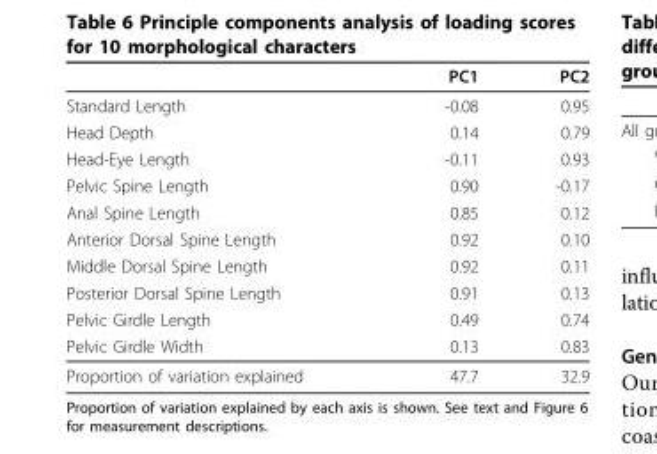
<table><thead><tr><td></td><td>PC1</td><td>PC2</td></tr></thead><tbody><tr><td>Standard Length</td><td>-0.08</td><td>0.95</td></tr><tr><td>Head Depth</td><td>0.14</td><td>0.79</td></tr><tr><td>Head-Eye Length</td><td>-0.11</td><td>0.93</td></tr><tr><td>Pelvic Spine Length</td><td>0.90</td><td>-0.17</td></tr><tr><td>Anal Spine Length</td><td>0.85</td><td>0.12</td></tr><tr><td>Anterior Dorsal Spine Length</td><td>0.92</td><td>0.10</td></tr><tr><td>Middle Dorsal Spine Length</td><td>0.92</td><td>0.11</td></tr><tr><td>Posterior Dorsal Spine Length</td><td>0.91</td><td>0.13</td></tr><tr><td>Pelvic Girdle Length</td><td>0.49</td><td>0.74</td></tr><tr><td>Pelvic Girdle Width</td><td>0.13</td><td>0.83</td></tr><tr><td>Proportion of variation explained</td><td>47.7</td><td>32.9</td></tr></tbody></table>